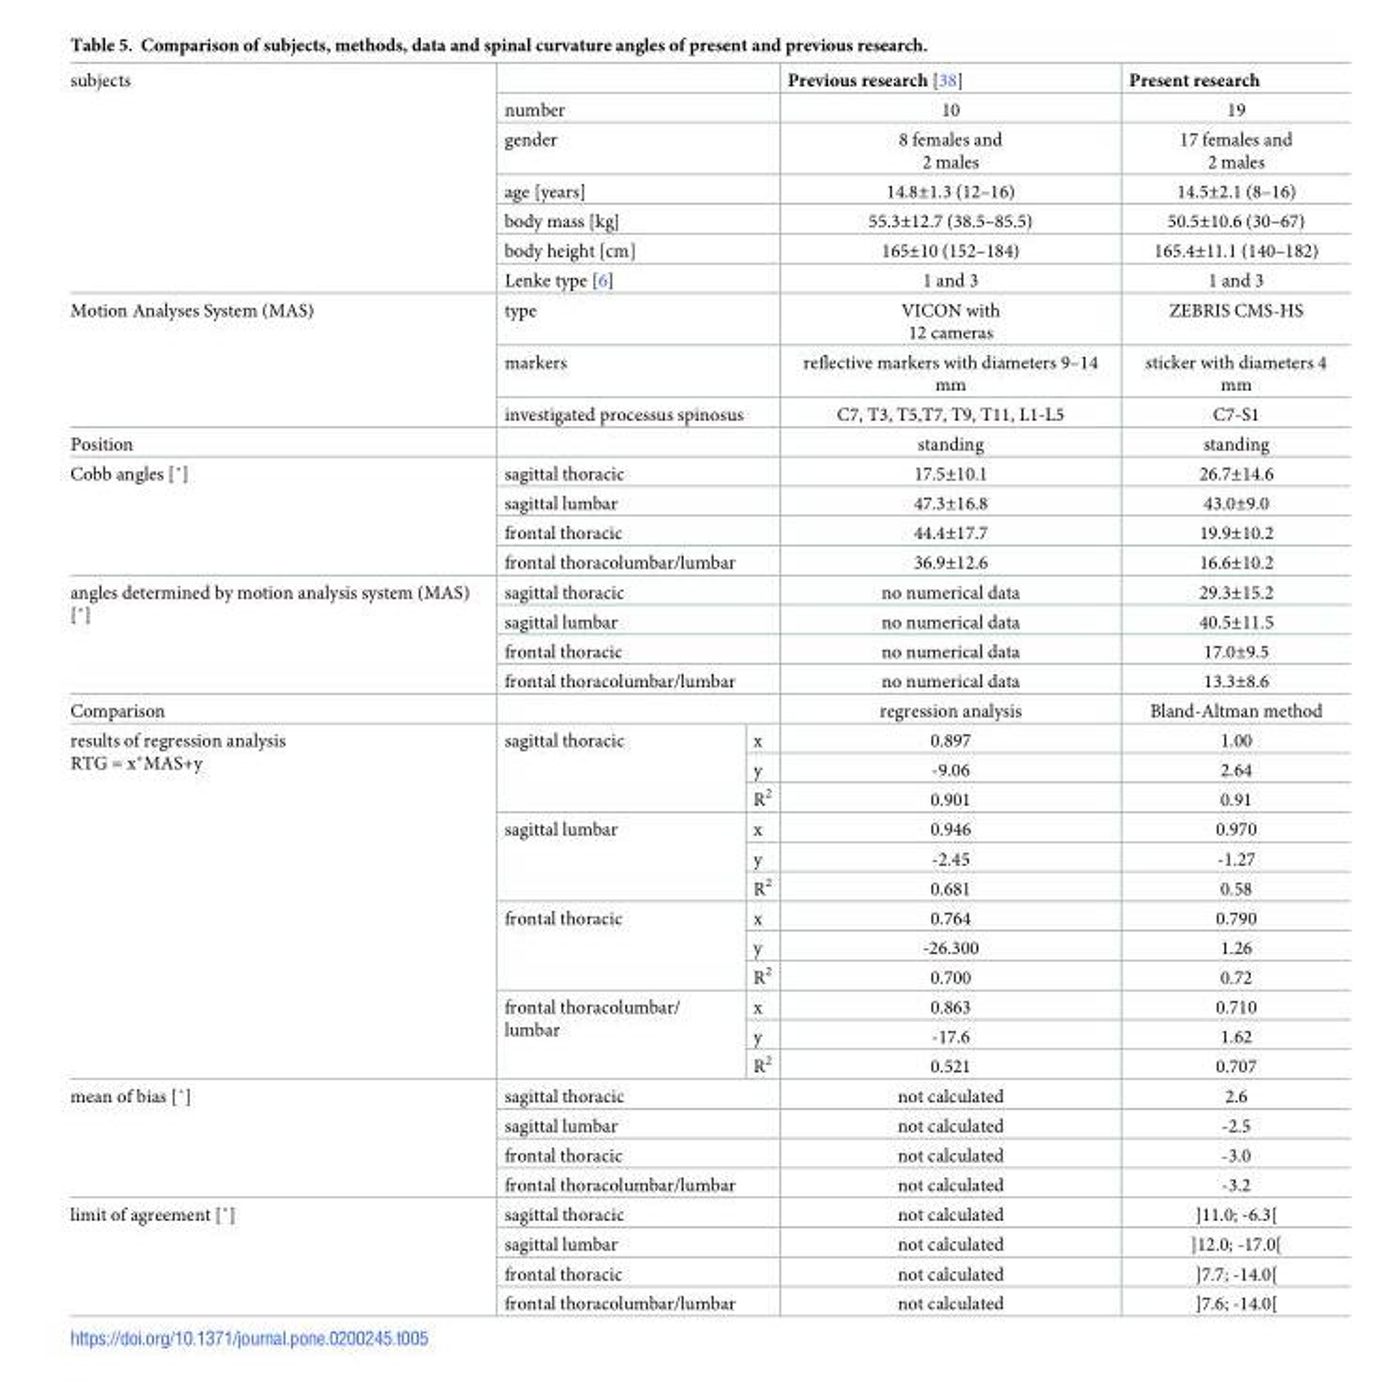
<table><tbody><tr><td rowspan="7">subjects</td><td colspan="2"></td><td>Previous research [38]</td><td>Present research</td></tr><tr><td colspan="2">number</td><td>10</td><td>19</td></tr><tr><td colspan="2">gender</td><td>8 females and 2 males</td><td>17 females and 2 males</td></tr><tr><td colspan="2">age [years]</td><td>14.8±1.3 (12–16)</td><td>14.5±2.1 (8–16)</td></tr><tr><td colspan="2">body mass [kg]</td><td>55.3±12.7 (38.5–85.5)</td><td>50.5±10.6 (30–67)</td></tr><tr><td colspan="2">body height [cm]</td><td>165±10 (152–184)</td><td>165.4±11.1 (140–182)</td></tr><tr><td colspan="2">Lenke type [6]</td><td>1 and 3</td><td>1 and 3</td></tr><tr><td rowspan="3">Motion Analyses System (MAS)</td><td colspan="2">type</td><td>VICON with 12 cameras</td><td>ZEBRIS CMS-HS</td></tr><tr><td colspan="2">markers</td><td>reflective markers with diameters 9–14 mm</td><td>sticker with diameters 4 mm</td></tr><tr><td colspan="2">investigated processus spinosus</td><td>C7, T3, T5,T7, T9, T11, L1-L5</td><td>C7-S1</td></tr><tr><td>Position</td><td colspan="2"></td><td>standing</td><td>standing</td></tr><tr><td rowspan="4">Cobb angles [˚]</td><td colspan="2">sagittal thoracic</td><td>17.5±10.1</td><td>26.7±14.6</td></tr><tr><td colspan="2">sagittal lumbar</td><td>47.3±16.8</td><td>43.0±9.0</td></tr><tr><td colspan="2">frontal thoracic</td><td>44.4±17.7</td><td>19.9±10.2</td></tr><tr><td colspan="2">frontal thoracolumbar/lumbar</td><td>36.9±12.6</td><td>16.6±10.2</td></tr><tr><td rowspan="4">angles determined by motion analysis system (MAS) [˚]</td><td colspan="2">sagittal thoracic</td><td>no numerical data</td><td>29.3±15.2</td></tr><tr><td colspan="2">sagittal lumbar</td><td>no numerical data</td><td>40.5±11.5</td></tr><tr><td colspan="2">frontal thoracic</td><td>no numerical data</td><td>17.0±9.5</td></tr><tr><td colspan="2">frontal thoracolumbar/lumbar</td><td>no numerical data</td><td>13.3±8.6</td></tr><tr><td>Comparison</td><td colspan="2"></td><td>regression analysis</td><td>Bland-Altman method</td></tr><tr><td rowspan="12">results of regression analysis RTG = x*MAS+y</td><td rowspan="3">sagittal thoracic</td><td>x</td><td>0.897</td><td>1.00</td></tr><tr><td>y</td><td>-9.06</td><td>2.64</td></tr><tr><td>R<sup>2</sup></td><td>0.901</td><td>0.91</td></tr><tr><td rowspan="3">sagittal lumbar</td><td>x</td><td>0.946</td><td>0.970</td></tr><tr><td>y</td><td>-2.45</td><td>-1.27</td></tr><tr><td>R<sup>2</sup></td><td>0.681</td><td>0.58</td></tr><tr><td rowspan="3">frontal thoracic</td><td>x</td><td>0.764</td><td>0.790</td></tr><tr><td>y</td><td>-26.300</td><td>1.26</td></tr><tr><td>R<sup>2</sup></td><td>0.700</td><td>0.72</td></tr><tr><td rowspan="3">frontal thoracolumbar/ lumbar</td><td>x</td><td>0.863</td><td>0.710</td></tr><tr><td>y</td><td>-17.6</td><td>1.62</td></tr><tr><td>R<sup>2</sup></td><td>0.521</td><td>0.707</td></tr><tr><td rowspan="4">mean of bias [˚]</td><td colspan="2">sagittal thoracic</td><td>not calculated</td><td>2.6</td></tr><tr><td colspan="2">sagittal lumbar</td><td>not calculated</td><td>-2.5</td></tr><tr><td colspan="2">frontal thoracic</td><td>not calculated</td><td>-3.0</td></tr><tr><td colspan="2">frontal thoracolumbar/lumbar</td><td>not calculated</td><td>-3.2</td></tr><tr><td rowspan="4">limit of agreement [˚]</td><td colspan="2">sagittal thoracic</td><td>not calculated</td><td>]11.0; -6.3[</td></tr><tr><td colspan="2">sagittal lumbar</td><td>not calculated</td><td>]12.0; -17.0[</td></tr><tr><td colspan="2">frontal thoracic</td><td>not calculated</td><td>]7.7; -14.0[</td></tr><tr><td colspan="2">frontal thoracolumbar/lumbar</td><td>not calculated</td><td>]7.6; -14.0[</td></tr></tbody></table>